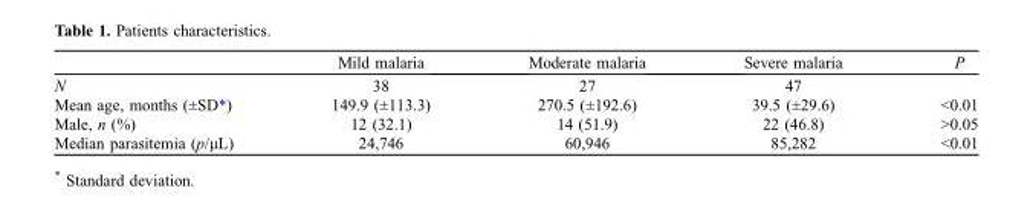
<table><thead><tr><td></td><td>Mild malaria</td><td>Moderate malaria</td><td>Severe malaria</td><td>P</td></tr></thead><tbody><tr><td>N</td><td>38</td><td>27</td><td>47</td><td></td></tr><tr><td>Mean age, months (±SD*)</td><td>149.9 (±113.3)</td><td>270.5 (±192.6)</td><td>39.5 (±29.6)</td><td>&lt;0.01</td></tr><tr><td>Male, n (%)</td><td>12 (32.1)</td><td>14 (51.9)</td><td>22 (46.8)</td><td>&gt;0.05</td></tr><tr><td>Median parasitemia (p/µL)</td><td>24,746</td><td>60,946</td><td>85,282</td><td>&lt;0.01</td></tr></tbody></table>